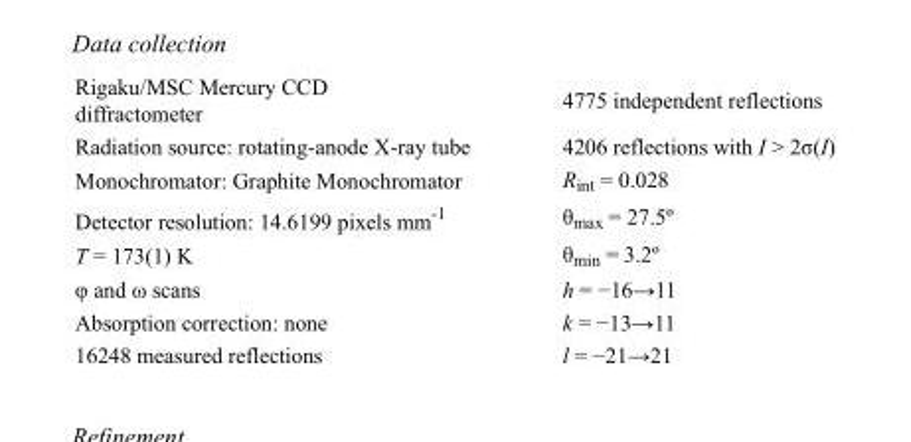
<table><tbody><tr><td>Rigaku/MSC Mercury CCD diffractometer</td><td>4775 independent reflections</td></tr><tr><td>Radiation source: rotating-anode X-ray tube</td><td>4206 reflections with I &gt; 2σ(I)</td></tr><tr><td>Monochromator: Graphite Monochromator</td><td>R<sub>int</sub> = 0.028</td></tr><tr><td>Detector resolution: 14.6199 pixels mm<sup>-1</sup></td><td>θ<sub>max</sub> = 27.5º</td></tr><tr><td>T = 173(1) K</td><td>θ<sub>min</sub> = 3.2º</td></tr><tr><td>φ and ω scans</td><td>h = −16→11</td></tr><tr><td>Absorption correction: none</td><td>k = −13→11</td></tr><tr><td>16248 measured reflections</td><td>l = −21→21</td></tr></tbody></table>